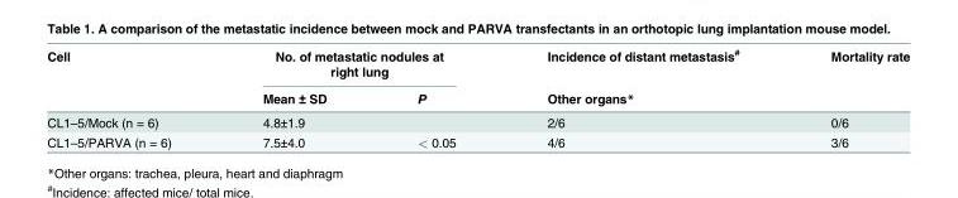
<table><thead><tr><td rowspan="2">Cell</td><td colspan="2">No. of metastatic nodules at right lung</td><td rowspan="2">Incidence of distant metastasis<sup>#</sup> Other organs*</td><td rowspan="2">Mortality rate</td></tr><tr><td>Mean ± SD</td><td>P</td></tr></thead><tbody><tr><td>CL1–5/Mock (n = 6)</td><td>4.8±1.9</td><td></td><td>2/6</td><td>0/6</td></tr><tr><td>CL1–5/PARVA (n = 6)</td><td>7.5±4.0</td><td>&lt; 0.05</td><td>4/6</td><td>3/6</td></tr></tbody></table>